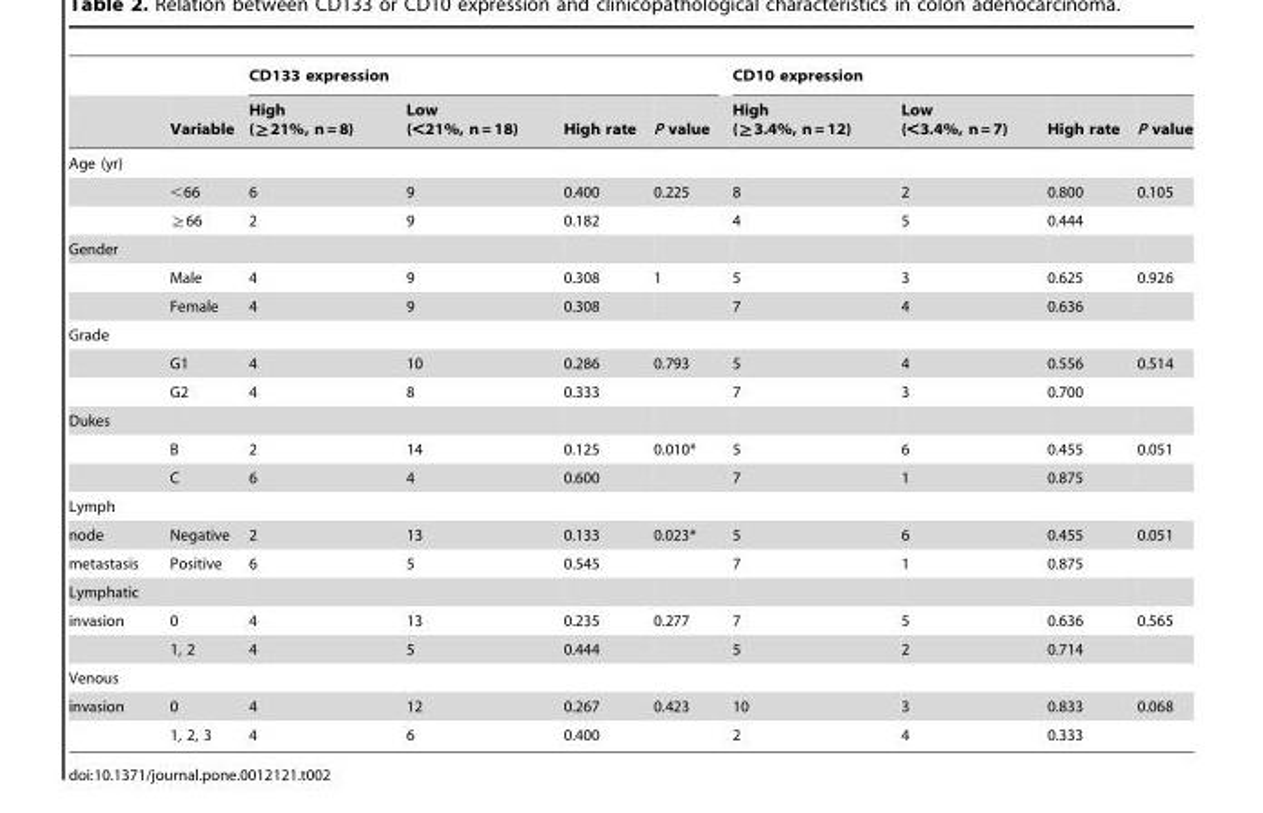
<table><thead><tr><td rowspan="2"></td><td rowspan="2">Variable</td><td colspan="4">CD133 expression</td><td colspan="4">CD10 expression</td></tr><tr><td>High (≧21%, n = 8)</td><td>Low (&lt;21%, n = 18)</td><td>High rate</td><td>P value</td><td>High (≧3.4%, n = 12)</td><td>Low (&lt;3.4%, n = 7)</td><td>High rate</td><td>P value</td></tr></thead><tbody><tr><td colspan="10">Age (yr)</td></tr><tr><td></td><td>&lt;66</td><td>6</td><td>9</td><td>0.400</td><td>0.225</td><td>8</td><td>2</td><td>0.800</td><td>0.105</td></tr><tr><td></td><td>≧66</td><td>2</td><td>9</td><td>0.182</td><td></td><td>4</td><td>5</td><td>0.444</td><td></td></tr><tr><td colspan="10">Gender</td></tr><tr><td></td><td>Male</td><td>4</td><td>9</td><td>0.308</td><td>1</td><td>5</td><td>3</td><td>0.625</td><td>0.926</td></tr><tr><td></td><td>Female</td><td>4</td><td>9</td><td>0.308</td><td></td><td>7</td><td>4</td><td>0.636</td><td></td></tr><tr><td colspan="10">Grade</td></tr><tr><td></td><td>G1</td><td>4</td><td>10</td><td>0.286</td><td>0.793</td><td>5</td><td>4</td><td>0.556</td><td>0.514</td></tr><tr><td></td><td>G2</td><td>4</td><td>8</td><td>0.333</td><td></td><td>7</td><td>3</td><td>0.700</td><td></td></tr><tr><td colspan="10">Dukes</td></tr><tr><td></td><td>B</td><td>2</td><td>14</td><td>0.125</td><td>0.010*</td><td>5</td><td>6</td><td>0.455</td><td>0.051</td></tr><tr><td></td><td>C</td><td>6</td><td>4</td><td>0.600</td><td></td><td>7</td><td>1</td><td>0.875</td><td></td></tr><tr><td colspan="10">Lymph</td></tr><tr><td>node</td><td>Negative</td><td>2</td><td>13</td><td>0.133</td><td>0.023*</td><td>5</td><td>6</td><td>0.455</td><td>0.051</td></tr><tr><td>metastasis</td><td>Positive</td><td>6</td><td>5</td><td>0.545</td><td></td><td>7</td><td>1</td><td>0.875</td><td></td></tr><tr><td colspan="10">Lymphatic</td></tr><tr><td rowspan="2">invasion</td><td>0</td><td>4</td><td>13</td><td>0.235</td><td>0.277</td><td>7</td><td>5</td><td>0.636</td><td>0.565</td></tr><tr><td>1, 2</td><td>4</td><td>5</td><td>0.444</td><td></td><td>5</td><td>2</td><td>0.714</td><td></td></tr><tr><td colspan="10">Venous</td></tr><tr><td rowspan="2">invasion</td><td>0</td><td>4</td><td>12</td><td>0.267</td><td>0.423</td><td>10</td><td>3</td><td>0.833</td><td>0.068</td></tr><tr><td>1, 2, 3</td><td>4</td><td>6</td><td>0.400</td><td></td><td>2</td><td>4</td><td>0.333</td><td></td></tr></tbody></table>